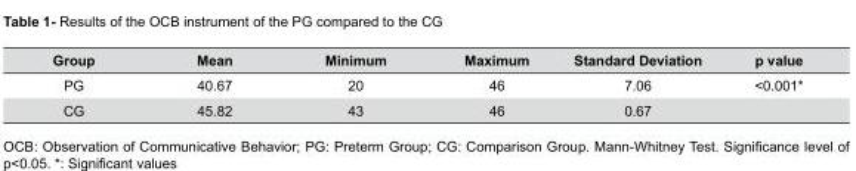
<table><thead><tr><td>Group</td><td>Mean</td><td>Minimum</td><td>Maximum</td><td>Standard Deviation</td><td>p value</td></tr></thead><tbody><tr><td>PG</td><td>40.67</td><td>20</td><td>46</td><td>7.06</td><td>&lt;0.001*</td></tr><tr><td>CG</td><td>45.82</td><td>43</td><td>46</td><td>0.67</td><td></td></tr></tbody></table>